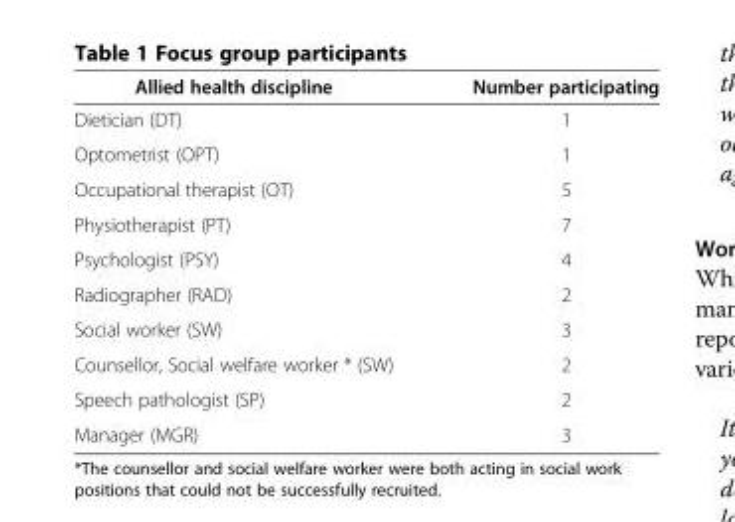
<table><thead><tr><td>Allied health discipline</td><td>Number participating</td></tr></thead><tbody><tr><td>Dietician (DT)</td><td>1</td></tr><tr><td>Optometrist (OPT)</td><td>1</td></tr><tr><td>Occupational therapist (OT)</td><td>5</td></tr><tr><td>Physiotherapist (PT)</td><td>7</td></tr><tr><td>Psychologist (PSY)</td><td>4</td></tr><tr><td>Radiographer (RAD)</td><td>2</td></tr><tr><td>Social worker (SW)</td><td>3</td></tr><tr><td>Counsellor, Social welfare worker * (SW)</td><td>2</td></tr><tr><td>Speech pathologist (SP)</td><td>2</td></tr><tr><td>Manager (MGR)</td><td>3</td></tr></tbody></table>